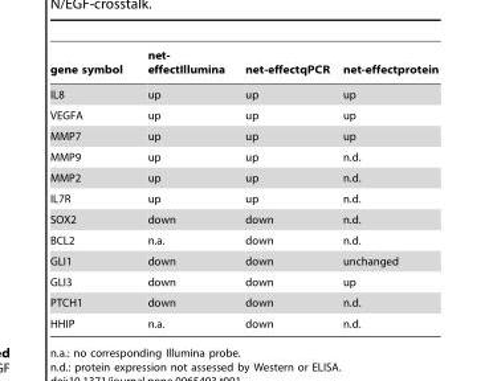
<table><thead><tr><td>gene symbol</td><td>net- effectIllumina</td><td>net-effectqPCR</td><td>net-effectprotein</td></tr></thead><tbody><tr><td>IL8</td><td>up</td><td>up</td><td>up</td></tr><tr><td>VEGFA</td><td>up</td><td>up</td><td>up</td></tr><tr><td>MMP7</td><td>up</td><td>up</td><td>up</td></tr><tr><td>MMP9</td><td>up</td><td>up</td><td>n.d.</td></tr><tr><td>MMP2</td><td>up</td><td>up</td><td>n.d.</td></tr><tr><td>IL7R</td><td>up</td><td>up</td><td>n.d.</td></tr><tr><td>SOX2</td><td>down</td><td>down</td><td>n.d.</td></tr><tr><td>BCL2</td><td>n.a.</td><td>down</td><td>n.d.</td></tr><tr><td>GLI1</td><td>down</td><td>down</td><td>unchanged</td></tr><tr><td>GLI3</td><td>down</td><td>down</td><td>up</td></tr><tr><td>PTCH1</td><td>down</td><td>down</td><td>n.d.</td></tr><tr><td>HHIP</td><td>n.a.</td><td>down</td><td>n.d.</td></tr></tbody></table>